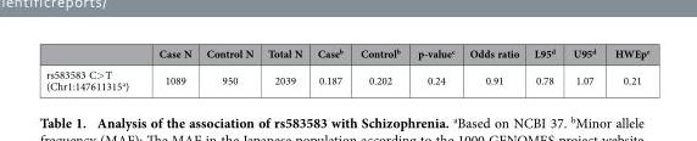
<table><thead><tr><td></td><td>Case N</td><td>Control N</td><td>Total N</td><td>Case<sup>b</sup></td><td>Control<sup>b</sup></td><td>p-value<sup>c</sup></td><td>Odds ratio</td><td>L95<sup>d</sup></td><td>U95<sup>d</sup></td><td>HWEp<sup>e</sup></td></tr></thead><tbody><tr><td>rs583583 C&gt; T (Chr1:147611315<sup>a</sup>)</td><td>1089</td><td>950</td><td>2039</td><td>0.187</td><td>0.202</td><td>0.24</td><td>0.91</td><td>0.78</td><td>1.07</td><td>0.21</td></tr></tbody></table>